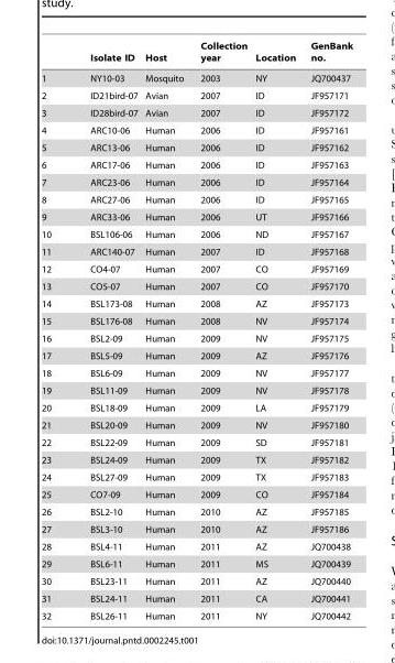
<table><thead><tr><td></td><td>Isolate ID</td><td>Host</td><td>Collection year</td><td>Location</td><td>GenBank no.</td></tr></thead><tbody><tr><td>1</td><td>NY10-03</td><td>Mosquito</td><td>2003</td><td>NY</td><td>JQ700437</td></tr><tr><td>2</td><td>ID21bird-07</td><td>Avian</td><td>2007</td><td>ID</td><td>JF957171</td></tr><tr><td>3</td><td>ID28bird-07</td><td>Avian</td><td>2007</td><td>ID</td><td>JF957172</td></tr><tr><td>4</td><td>ARC10-06</td><td>Human</td><td>2006</td><td>ID</td><td>JF957161</td></tr><tr><td>5</td><td>ARC13-06</td><td>Human</td><td>2006</td><td>ID</td><td>JF957162</td></tr><tr><td>6</td><td>ARC17-06</td><td>Human</td><td>2006</td><td>ID</td><td>JF957163</td></tr><tr><td>7</td><td>ARC23-06</td><td>Human</td><td>2006</td><td>ID</td><td>JF957164</td></tr><tr><td>8</td><td>ARC27-06</td><td>Human</td><td>2006</td><td>ID</td><td>JF957165</td></tr><tr><td>9</td><td>ARC33-06</td><td>Human</td><td>2006</td><td>UT</td><td>JF957166</td></tr><tr><td>10</td><td>BSL106-06</td><td>Human</td><td>2006</td><td>ND</td><td>JF957167</td></tr><tr><td>11</td><td>ARC140-07</td><td>Human</td><td>2007</td><td>ID</td><td>JF957168</td></tr><tr><td>12</td><td>CO4-07</td><td>Human</td><td>2007</td><td>CO</td><td>JF957169</td></tr><tr><td>13</td><td>CO5-07</td><td>Human</td><td>2007</td><td>CO</td><td>JF957170</td></tr><tr><td>14</td><td>BSL173-08</td><td>Human</td><td>2008</td><td>AZ</td><td>JF957173</td></tr><tr><td>15</td><td>BSL176-08</td><td>Human</td><td>2008</td><td>NV</td><td>JF957174</td></tr><tr><td>16</td><td>BSL2-09</td><td>Human</td><td>2009</td><td>NV</td><td>JF957175</td></tr><tr><td>17</td><td>BSL5-09</td><td>Human</td><td>2009</td><td>AZ</td><td>JF957176</td></tr><tr><td>18</td><td>BSL6-09</td><td>Human</td><td>2009</td><td>NV</td><td>JF957177</td></tr><tr><td>19</td><td>BSL11-09</td><td>Human</td><td>2009</td><td>NV</td><td>JF957178</td></tr><tr><td>20</td><td>BSL18-09</td><td>Human</td><td>2009</td><td>LA</td><td>JF957179</td></tr><tr><td>21</td><td>BSL20-09</td><td>Human</td><td>2009</td><td>NV</td><td>JF957180</td></tr><tr><td>22</td><td>BSL22-09</td><td>Human</td><td>2009</td><td>SD</td><td>JF957181</td></tr><tr><td>23</td><td>BSL24-09</td><td>Human</td><td>2009</td><td>TX</td><td>JF957182</td></tr><tr><td>24</td><td>BSL27-09</td><td>Human</td><td>2009</td><td>TX</td><td>JF957183</td></tr><tr><td>25</td><td>CO7-09</td><td>Human</td><td>2009</td><td>CO</td><td>JF957184</td></tr><tr><td>26</td><td>BSL2-10</td><td>Human</td><td>2010</td><td>AZ</td><td>JF957185</td></tr><tr><td>27</td><td>BSL3-10</td><td>Human</td><td>2010</td><td>AZ</td><td>JF957186</td></tr><tr><td>28</td><td>BSL4-11</td><td>Human</td><td>2011</td><td>AZ</td><td>JQ700438</td></tr><tr><td>29</td><td>BSL6-11</td><td>Human</td><td>2011</td><td>MS</td><td>JQ700439</td></tr><tr><td>30</td><td>BSL23-11</td><td>Human</td><td>2011</td><td>AZ</td><td>JQ700440</td></tr><tr><td>31</td><td>BSL24-11</td><td>Human</td><td>2011</td><td>CA</td><td>JQ700441</td></tr><tr><td>32</td><td>BSL26-11</td><td>Human</td><td>2011</td><td>NY</td><td>JQ700442</td></tr></tbody></table>